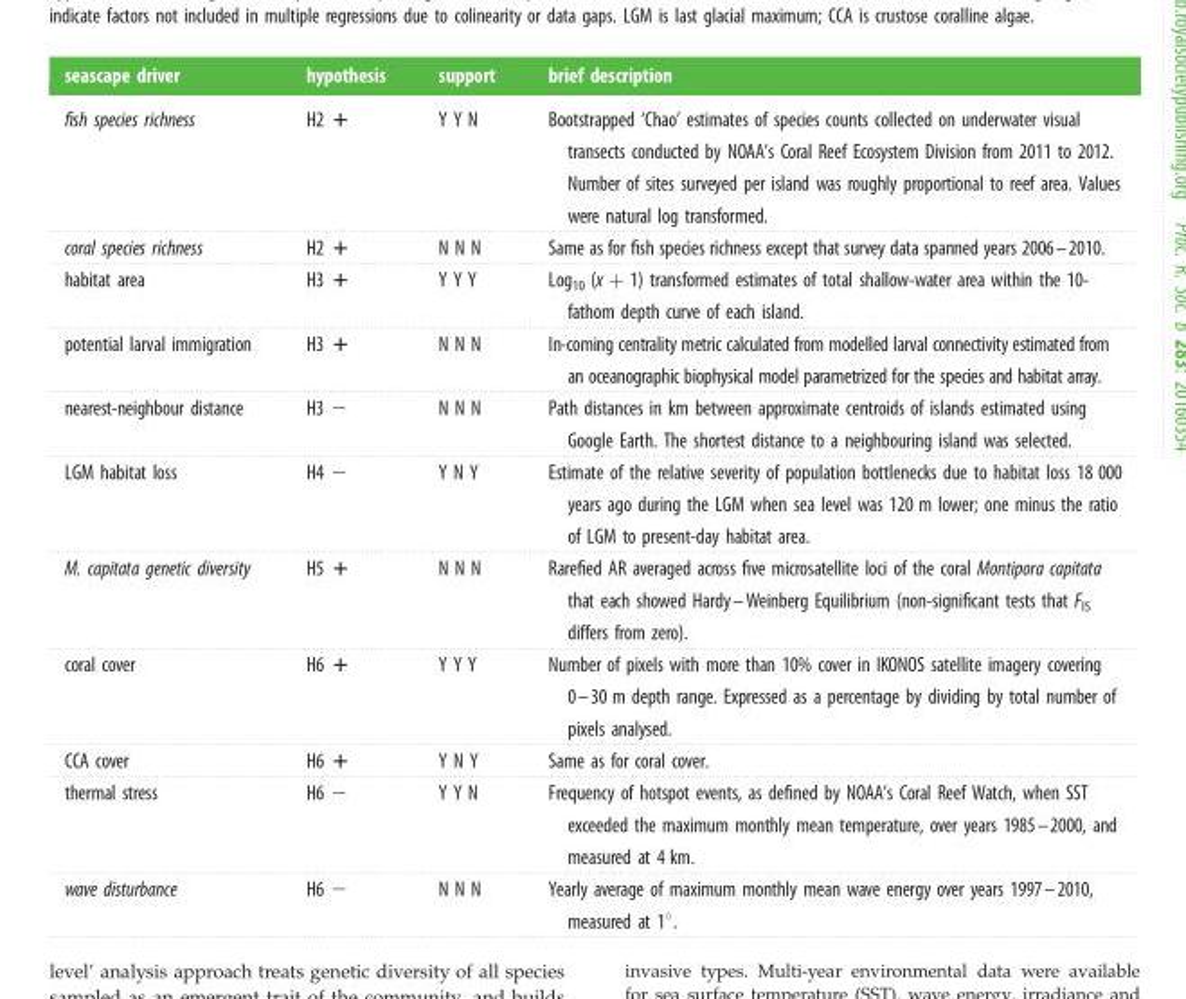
<table><thead><tr><td>seascape driver</td><td>hypothesis</td><td>support</td><td>brief description</td></tr></thead><tbody><tr><td>fish species richness</td><td>H2 +</td><td>Y Y N</td><td>Bootstrapped ‘Chao’ estimates of species counts collected on underwater visual transects conducted by NOAA’s Coral Reef Ecosystem Division from 2011 to 2012. Number of sites surveyed per island was roughly proportional to reef area. Values were natural log transformed.</td></tr><tr><td>coral species richness</td><td>H2 +</td><td>N N N</td><td>Same as for fish species richness except that survey data spanned years 2006–2010.</td></tr><tr><td>habitat area</td><td>H3 +</td><td>Y Y Y</td><td>Log<sub>10</sub> (x + 1) transformed estimates of total shallow-water area within the 10- fathom depth curve of each island.</td></tr><tr><td>potential larval immigration</td><td>H3 +</td><td>N N N</td><td>In-coming centrality metric calculated from modelled larval connectivity estimated from an oceanographic biophysical model parametrized for the species and habitat array.</td></tr><tr><td>nearest-neighbour distance</td><td>H3 −</td><td>N N N</td><td>Path distances in km between approximate centroids of islands estimated using Google Earth. The shortest distance to a neighbouring island was selected.</td></tr><tr><td>LGM habitat loss</td><td>H4 −</td><td>Y N Y</td><td>Estimate of the relative severity of population bottlenecks due to habitat loss 18 000 years ago during the LGM when sea level was 120 m lower; one minus the ratio of LGM to present-day habitat area.</td></tr><tr><td>M. capitata genetic diversity</td><td>H5 +</td><td>N N N</td><td>Rarefied AR averaged across five microsatellite loci of the coral Montipora capitata that each showed Hardy–Weinberg Equilibrium (non-significant tests that F<sub>IS</sub> differs from zero).</td></tr><tr><td>coral cover</td><td>H6 +</td><td>Y Y Y</td><td>Number of pixels with more than 10% cover in IKONOS satellite imagery covering 0–30 m depth range. Expressed as a percentage by dividing by total number of pixels analysed.</td></tr><tr><td>CCA cover</td><td>H6 +</td><td>Y N Y</td><td>Same as for coral cover.</td></tr><tr><td>thermal stress</td><td>H6 −</td><td>Y Y N</td><td>Frequency of hotspot events, as defined by NOAA’s Coral Reef Watch, when SST exceeded the maximum monthly mean temperature, over years 1985–2000, and measured at 4 km.</td></tr><tr><td>wave disturbance</td><td>H6 −</td><td>N N N</td><td>Yearly average of maximum monthly mean wave energy over years 1997–2010, measured at 1°.</td></tr></tbody></table>